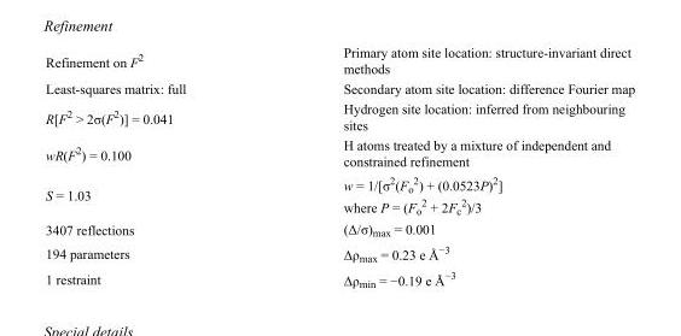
<table><tbody><tr><td>Refinement on F<sup>2</sup></td><td>Primary atom site location: structure-invariant direct methods</td></tr><tr><td>Least-squares matrix: full</td><td>Secondary atom site location: difference Fourier map</td></tr><tr><td>R[F<sup>2</sup> &gt; 2σ(F<sup>2</sup>)] = 0.041</td><td>Hydrogen site location: inferred from neighbouring sites</td></tr><tr><td>wR(F<sup>2</sup>) = 0.100</td><td>H atoms treated by a mixture of independent and constrained refinement</td></tr><tr><td>S = 1.03</td><td>w = 1/[σ<sup>2</sup>(F<sub>o</sub> <sup>2</sup>) + (0.0523P)<sup>2</sup>] where P = (F<sub>o</sub> <sup>2</sup> + 2F<sub>c</sub> <sup>2</sup>)/3</td></tr><tr><td>3407 reflections</td><td>(Δ/σ)<sub>max</sub> = 0.001</td></tr><tr><td>194 parameters</td><td>Δρ<sub>max</sub> = 0.23 e Å<sup>−3</sup></td></tr><tr><td>1 restraint</td><td>Δρ<sub>min</sub> = −0.19 e Å<sup>−3</sup></td></tr></tbody></table>